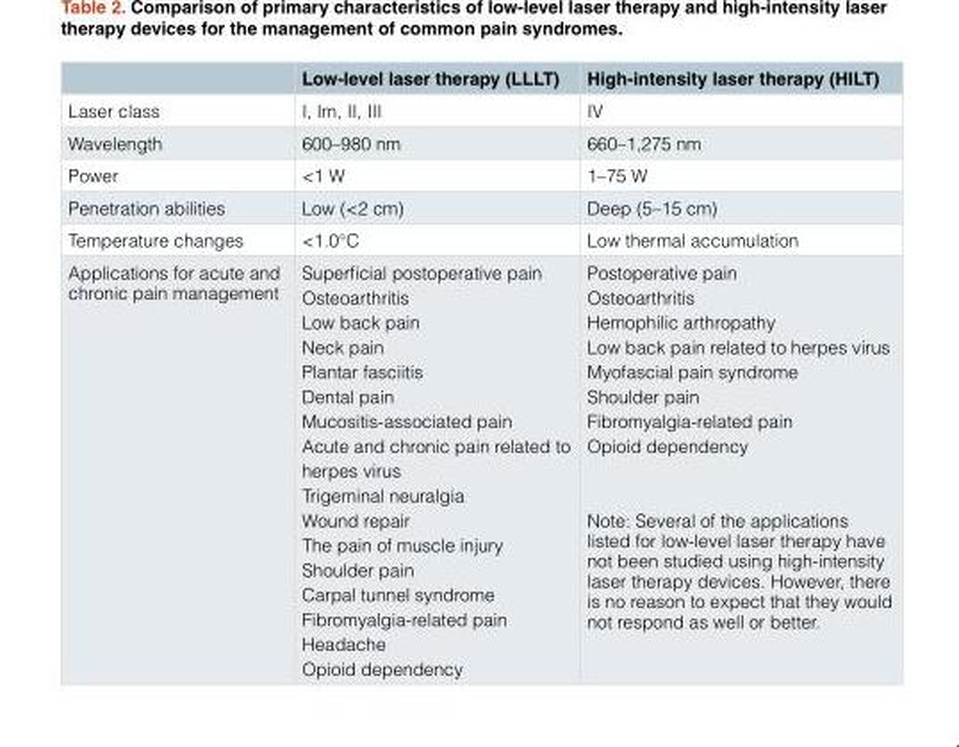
<table><thead><tr><td></td><td>Low-level laser therapy (LLLT)</td><td>High-intensity laser therapy (HILT)</td></tr></thead><tbody><tr><td>Laser class</td><td>I, Im, II, III</td><td>IV</td></tr><tr><td>Wavelength</td><td>600–980 nm</td><td>660–1,275 nm</td></tr><tr><td>Power</td><td>&lt;1 W</td><td>1–75 W</td></tr><tr><td>Penetration abilities</td><td>Low (&lt;2 cm)</td><td>Deep (5–15 cm)</td></tr><tr><td>Temperature changes</td><td>&lt;1.0°C</td><td>Low thermal accumulation</td></tr><tr><td>Applications for acute and chronic pain management</td><td>Superficial postoperative pain Osteoarthritis Low back pain Neck pain Plantar fasciitis Dental pain Mucositis-associated pain Acute and chronic pain related to herpes virus Trigeminal neuralgia Wound repair The pain of muscle injury Shoulder pain Carpal tunnel syndrome Fibromyalgia-related pain Headache Opioid dependency</td><td>Postoperative pain Osteoarthritis Hemophilic arthropathy Low back pain related to herpes virus Myofascial pain syndrome Shoulder pain Fibromyalgia-related pain Opioid dependency Note: Several of the applications listed for low-level laser therapy have not been studied using high-intensity laser therapy devices. However, there is no reason to expect that they would not respond as well or better.</td></tr></tbody></table>